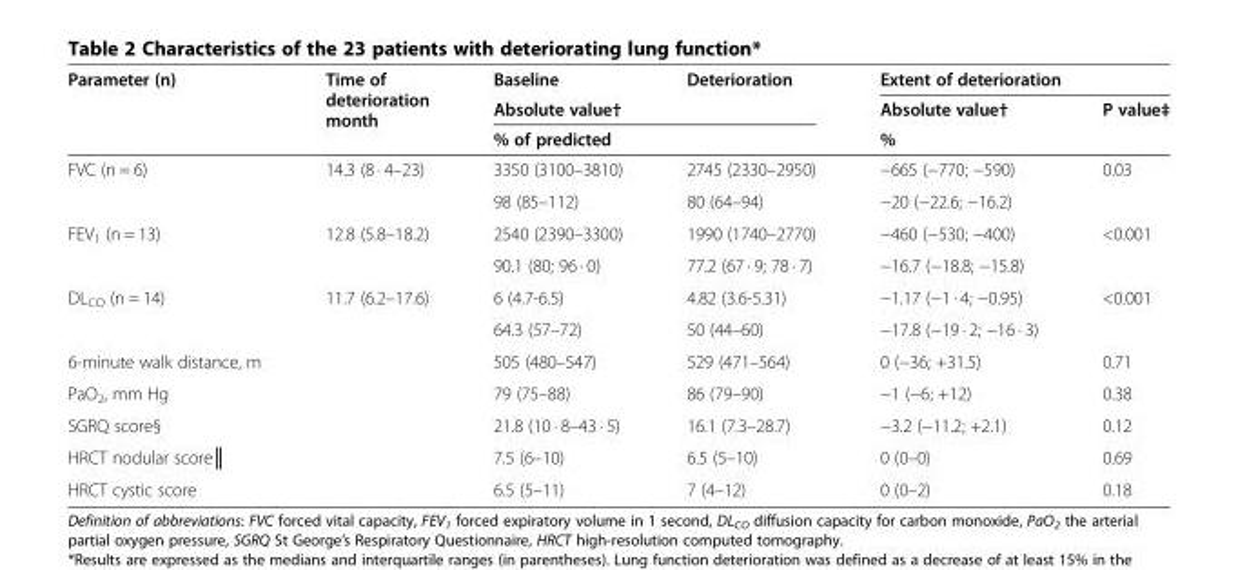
<table><thead><tr><td rowspan="3">Parameter (n)</td><td rowspan="3">Time of deterioration month</td><td>Baseline</td><td>Deterioration</td><td colspan="2">Extent of deterioration</td></tr><tr><td rowspan="2" colspan="2">Absolute value† % of predicted</td><td rowspan="2">Absolute value† %</td><td rowspan="2">P value‡</td></tr><tr></tr></thead><tbody><tr><td rowspan="2">FVC (n = 6)</td><td>14.3 (8 · 4–23)</td><td>3350 (3100–3810)</td><td>2745 (2330–2950)</td><td>−665 (−770; −590)</td><td>0.03</td></tr><tr><td></td><td>98 (85–112)</td><td>80 (64–94)</td><td>−20 (−22.6; −16.2)</td><td></td></tr><tr><td rowspan="2">FEV<sub>1</sub> (n = 13)</td><td>12.8 (5.8–18.2)</td><td>2540 (2390–3300)</td><td>1990 (1740–2770)</td><td>−460 (−530; −400)</td><td>&lt;0.001</td></tr><tr><td></td><td>90.1 (80; 96 · 0)</td><td>77.2 (67 · 9; 78 · 7)</td><td>−16.7 (−18.8; −15.8)</td><td></td></tr><tr><td rowspan="2">DL<sub>CO</sub> (n = 14)</td><td>11.7 (6.2–17.6)</td><td>6 (4.7-6.5)</td><td>4.82 (3.6-5.31)</td><td>−1.17 (−1 · 4; −0.95)</td><td>&lt;0.001</td></tr><tr><td></td><td>64.3 (57–72)</td><td>50 (44–60)</td><td>−17.8 (−19 · 2; −16 · 3)</td><td></td></tr><tr><td>6-minute walk distance, m</td><td></td><td>505 (480–547)</td><td>529 (471–564)</td><td>0 (−36; +31.5)</td><td>0.71</td></tr><tr><td>PaO<sub>2</sub>, mm Hg</td><td></td><td>79 (75–88)</td><td>86 (79–90)</td><td>−1 (−6; +12)</td><td>0.38</td></tr><tr><td>SGRQ score§</td><td></td><td>21.8 (10 · 8–43 · 5)</td><td>16.1 (7.3–28.7)</td><td>−3.2 (−11.2; +2.1)</td><td>0.12</td></tr><tr><td>HRCT nodular score║</td><td></td><td>7.5 (6–10)</td><td>6.5 (5–10)</td><td>0 (0–0)</td><td>0.69</td></tr><tr><td>HRCT cystic score</td><td></td><td>6.5 (5–11)</td><td>7 (4–12)</td><td>0 (0–2)</td><td>0.18</td></tr></tbody></table>